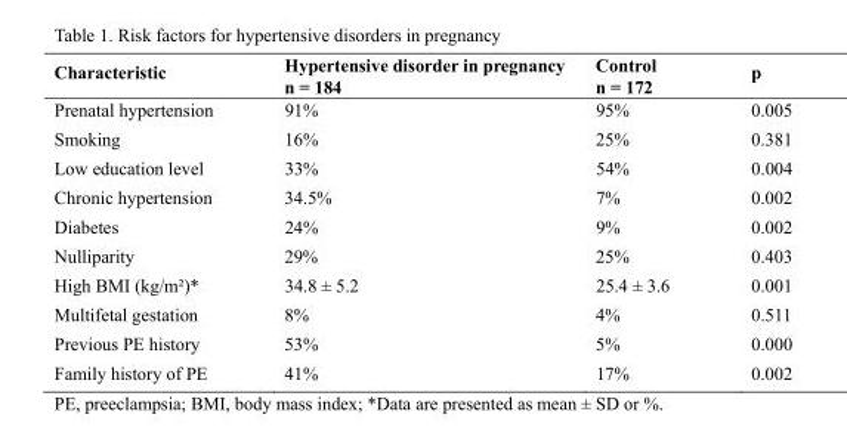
<table><thead><tr><td>Characteristic</td><td>Hypertensive disorder in pregnancy n = 184</td><td>Control n = 172</td><td>p</td></tr></thead><tbody><tr><td>Prenatal hypertension</td><td>91%</td><td>95%</td><td>0.005</td></tr><tr><td>Smoking</td><td>16%</td><td>25%</td><td>0.381</td></tr><tr><td>Low education level</td><td>33%</td><td>54%</td><td>0.004</td></tr><tr><td>Chronic hypertension</td><td>34.5%</td><td>7%</td><td>0.002</td></tr><tr><td>Diabetes</td><td>24%</td><td>9%</td><td>0.002</td></tr><tr><td>Nulliparity</td><td>29%</td><td>25%</td><td>0.403</td></tr><tr><td>High BMI (kg/m²)*</td><td>34.8 ± 5.2</td><td>25.4 ± 3.6</td><td>0.001</td></tr><tr><td>Multifetal gestation</td><td>8%</td><td>4%</td><td>0.511</td></tr><tr><td>Previous PE history</td><td>53%</td><td>5%</td><td>0.000</td></tr><tr><td>Family history of PE</td><td>41%</td><td>17%</td><td>0.002</td></tr></tbody></table>